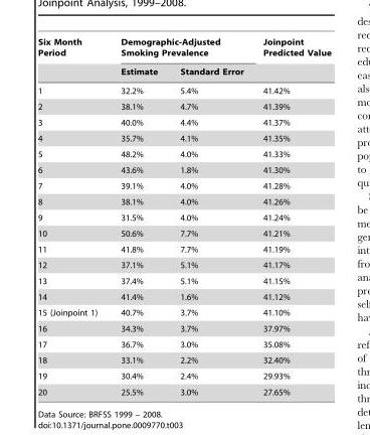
<table><thead><tr><td rowspan="2">Six Month Period</td><td colspan="2">Demographic-Adjusted Smoking Prevalence</td><td rowspan="2">Joinpoint Predicted Value</td></tr><tr><td>Estimate</td><td>Standard Error</td></tr></thead><tbody><tr><td>1</td><td>32.2%</td><td>5.4%</td><td>41.42%</td></tr><tr><td>2</td><td>38.1%</td><td>4.7%</td><td>41.39%</td></tr><tr><td>3</td><td>40.0%</td><td>4.4%</td><td>41.37%</td></tr><tr><td>4</td><td>35.7%</td><td>4.1%</td><td>41.35%</td></tr><tr><td>5</td><td>48.2%</td><td>4.0%</td><td>41.33%</td></tr><tr><td>6</td><td>43.6%</td><td>1.8%</td><td>41.30%</td></tr><tr><td>7</td><td>39.1%</td><td>4.0%</td><td>41.28%</td></tr><tr><td>8</td><td>38.1%</td><td>4.0%</td><td>41.26%</td></tr><tr><td>9</td><td>31.5%</td><td>4.0%</td><td>41.24%</td></tr><tr><td>10</td><td>50.6%</td><td>7.7%</td><td>41.21%</td></tr><tr><td>11</td><td>41.8%</td><td>7.7%</td><td>41.19%</td></tr><tr><td>12</td><td>37.1%</td><td>5.1%</td><td>41.17%</td></tr><tr><td>13</td><td>37.4%</td><td>5.1%</td><td>41.15%</td></tr><tr><td>14</td><td>41.4%</td><td>1.6%</td><td>41.12%</td></tr><tr><td>15 (Joinpoint 1)</td><td>40.7%</td><td>3.7%</td><td>41.10%</td></tr><tr><td>16</td><td>34.3%</td><td>3.7%</td><td>37.97%</td></tr><tr><td>17</td><td>36.7%</td><td>3.0%</td><td>35.08%</td></tr><tr><td>18</td><td>33.1%</td><td>2.2%</td><td>32.40%</td></tr><tr><td>19</td><td>30.4%</td><td>2.4%</td><td>29.93%</td></tr><tr><td>20</td><td>25.5%</td><td>3.0%</td><td>27.65%</td></tr></tbody></table>